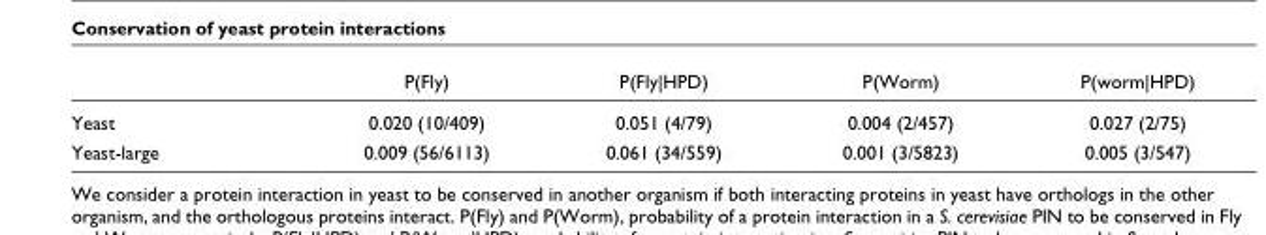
<table><thead><tr><td></td><td>P(Fly)</td><td>P(Fly|HPD)</td><td>P(Worm)</td><td>P(worm|HPD)</td></tr></thead><tbody><tr><td>Yeast</td><td>0.020 (10/409)</td><td>0.051 (4/79)</td><td>0.004 (2/457)</td><td>0.027 (2/75)</td></tr><tr><td>Yeast-large</td><td>0.009 (56/6113)</td><td>0.061 (34/559)</td><td>0.001 (3/5823)</td><td>0.005 (3/547)</td></tr></tbody></table>